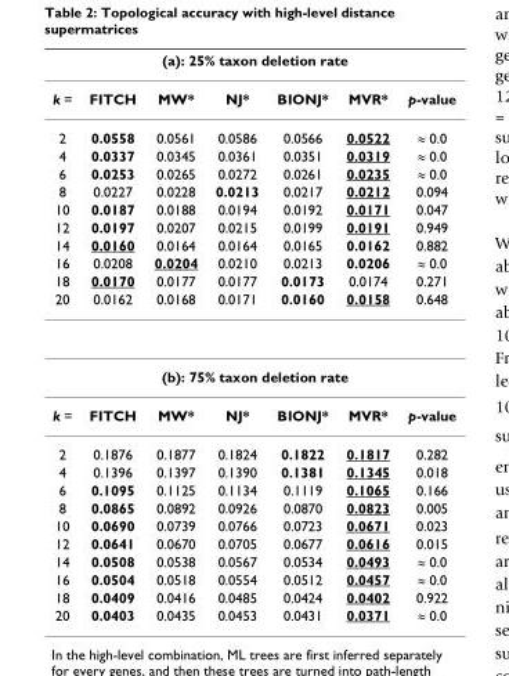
<table><thead><tr><td colspan="7">(a): 25% taxon deletion rate</td></tr><tr><td>k =</td><td>FITCH</td><td>MW*</td><td>NJ*</td><td>BIONJ*</td><td>MVR*</td><td>p-value</td></tr></thead><tbody><tr><td>2</td><td>0.0558</td><td>0.0561</td><td>0.0586</td><td>0.0566</td><td>0.0522</td><td>≈ 0.0</td></tr><tr><td>4</td><td>0.0337</td><td>0.0345</td><td>0.0361</td><td>0.0351</td><td>0.0319</td><td>≈ 0.0</td></tr><tr><td>6</td><td>0.0253</td><td>0.0265</td><td>0.0272</td><td>0.0261</td><td>0.0235</td><td>≈ 0.0</td></tr><tr><td>8</td><td>0.0227</td><td>0.0228</td><td>0.0213</td><td>0.0217</td><td>0.0212</td><td>0.094</td></tr><tr><td>10</td><td>0.0187</td><td>0.0188</td><td>0.0194</td><td>0.0192</td><td>0.0171</td><td>0.047</td></tr><tr><td>12</td><td>0.0197</td><td>0.0207</td><td>0.0215</td><td>0.0199</td><td>0.0191</td><td>0.949</td></tr><tr><td>14</td><td>0.0160</td><td>0.0164</td><td>0.0164</td><td>0.0165</td><td>0.0162</td><td>0.882</td></tr><tr><td>16</td><td>0.0208</td><td>0.0204</td><td>0.0210</td><td>0.0213</td><td>0.0206</td><td>≈ 0.0</td></tr><tr><td>18</td><td>0.0170</td><td>0.0177</td><td>0.0177</td><td>0.0173</td><td>0.0174</td><td>0.271</td></tr><tr><td>20</td><td>0.0162</td><td>0.0168</td><td>0.0171</td><td>0.0160</td><td>0.0158</td><td>0.648</td></tr><tr><td colspan="7">(b): 75% taxon deletion rate</td></tr><tr><td>k =</td><td>FITCH</td><td>MW*</td><td>NJ*</td><td>BIONJ*</td><td>MVR*</td><td>p-value</td></tr><tr><td>2</td><td>0.1876</td><td>0.1877</td><td>0.1824</td><td>0.1822</td><td>0.1817</td><td>0.282</td></tr><tr><td>4</td><td>0.1396</td><td>0.1397</td><td>0.1390</td><td>0.1381</td><td>0.1345</td><td>0.018</td></tr><tr><td>6</td><td>0.1095</td><td>0.1125</td><td>0.1134</td><td>0.1119</td><td>0.1065</td><td>0.166</td></tr><tr><td>8</td><td>0.0865</td><td>0.0892</td><td>0.0926</td><td>0.0870</td><td>0.0823</td><td>0.005</td></tr><tr><td>10</td><td>0.0690</td><td>0.0739</td><td>0.0766</td><td>0.0723</td><td>0.0671</td><td>0.023</td></tr><tr><td>12</td><td>0.0641</td><td>0.0670</td><td>0.0705</td><td>0.0677</td><td>0.0616</td><td>0.015</td></tr><tr><td>14</td><td>0.0508</td><td>0.0538</td><td>0.0567</td><td>0.0534</td><td>0.0493</td><td>≈ 0.0</td></tr><tr><td>16</td><td>0.0504</td><td>0.0518</td><td>0.0554</td><td>0.0512</td><td>0.0457</td><td>≈ 0.0</td></tr><tr><td>18</td><td>0.0409</td><td>0.0416</td><td>0.0485</td><td>0.0424</td><td>0.0402</td><td>0.922</td></tr><tr><td>20</td><td>0.0403</td><td>0.0435</td><td>0.0453</td><td>0.0431</td><td>0.0371</td><td>≈ 0.0</td></tr></tbody></table>